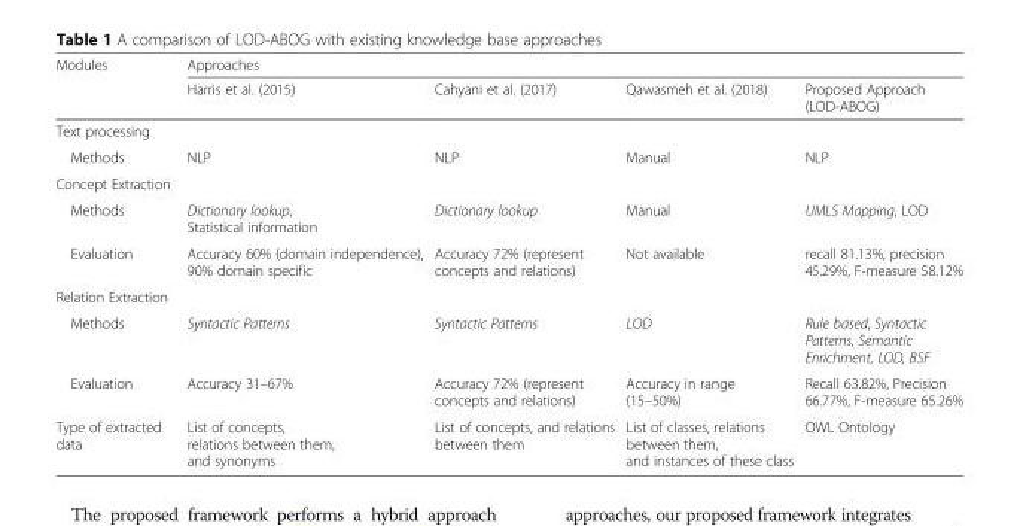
<table><thead><tr><td rowspan="2">Modules</td><td colspan="4">Approaches</td></tr><tr><td>Harris et al. (2015)</td><td>Cahyani et al. (2017)</td><td>Qawasmeh et al. (2018)</td><td>Proposed Approach (LOD-ABOG)</td></tr></thead><tbody><tr><td colspan="5">Text processing</td></tr><tr><td>Methods</td><td>NLP</td><td>NLP</td><td>Manual</td><td>NLP</td></tr><tr><td colspan="5">Concept Extraction</td></tr><tr><td>Methods</td><td>Dictionary lookup, Statistical information</td><td>Dictionary lookup</td><td>Manual</td><td>UMLS Mapping, LOD</td></tr><tr><td>Evaluation</td><td>Accuracy 60% (domain independence), 90% domain specific</td><td>Accuracy 72% (represent concepts and relations)</td><td>Not available</td><td>recall 81.13%, precision 45.29%, F-measure 58.12%</td></tr><tr><td colspan="5">Relation Extraction</td></tr><tr><td>Methods</td><td>Syntactic Patterns</td><td>Syntactic Patterns</td><td>LOD</td><td>Rule based, Syntactic Patterns, Semantic Enrichment, LOD, BSF</td></tr><tr><td>Evaluation</td><td>Accuracy 31–67%</td><td>Accuracy 72% (represent concepts and relations)</td><td>Accuracy in range (15–50%)</td><td>Recall 63.82%, Precision 66.77%, F-measure 65.26%</td></tr><tr><td>Type of extracted data</td><td>List of concepts, relations between them, and synonyms</td><td>List of concepts, and relations between them</td><td>List of classes, relations between them, and instances of these class</td><td>OWL Ontology</td></tr></tbody></table>